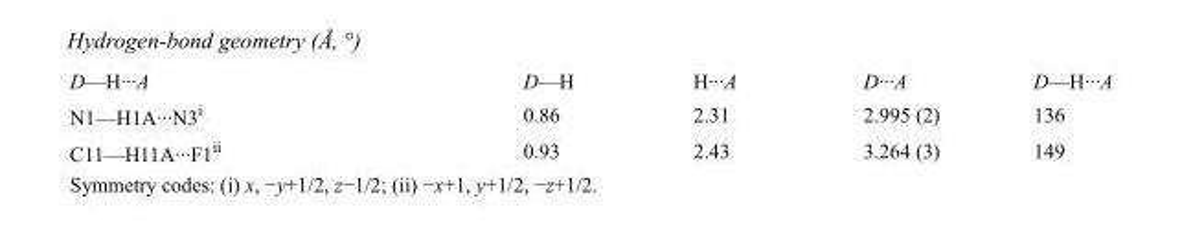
<table><tbody><tr><td>D—H···A</td><td>D—H</td><td>H···A</td><td>D···A</td><td>D—H···A</td></tr><tr><td>N1—H1A···N3<sup>i</sup></td><td>0.86</td><td>2.31</td><td>2.995 (2)</td><td>136</td></tr><tr><td>C11—H11A···F1<sup>ii</sup></td><td>0.93</td><td>2.43</td><td>3.264 (3)</td><td>149</td></tr></tbody></table>